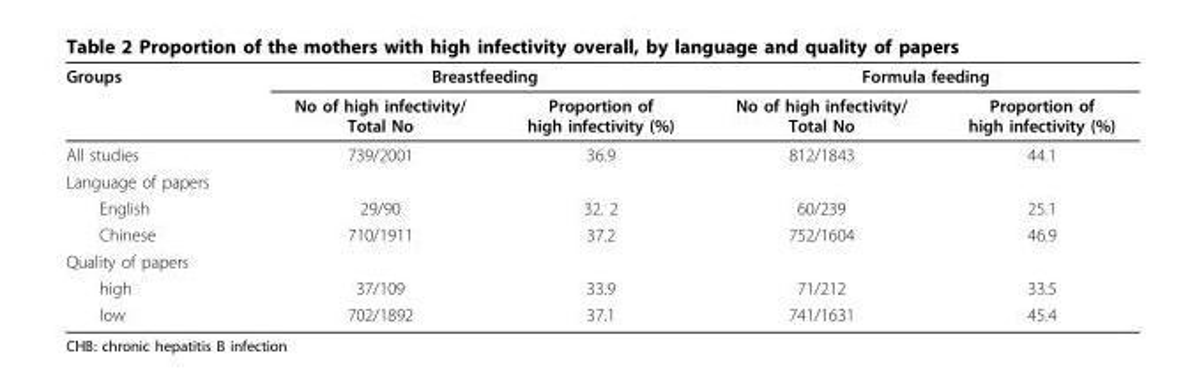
<table><thead><tr><td rowspan="2">Groups</td><td colspan="2">Breastfeeding</td><td colspan="2">Formula feeding</td></tr><tr><td>No of high infectivity/ Total No</td><td>Proportion of high infectivity (%)</td><td>No of high infectivity/ Total No</td><td>Proportion of high infectivity (%)</td></tr></thead><tbody><tr><td>All studies</td><td>739/2001</td><td>36.9</td><td>812/1843</td><td>44.1</td></tr><tr><td colspan="5">Language of papers</td></tr><tr><td>English</td><td>29/90</td><td>32. 2</td><td>60/239</td><td>25.1</td></tr><tr><td>Chinese</td><td>710/1911</td><td>37.2</td><td>752/1604</td><td>46.9</td></tr><tr><td colspan="5">Quality of papers</td></tr><tr><td>high</td><td>37/109</td><td>33.9</td><td>71/212</td><td>33.5</td></tr><tr><td>low</td><td>702/1892</td><td>37.1</td><td>741/1631</td><td>45.4</td></tr></tbody></table>